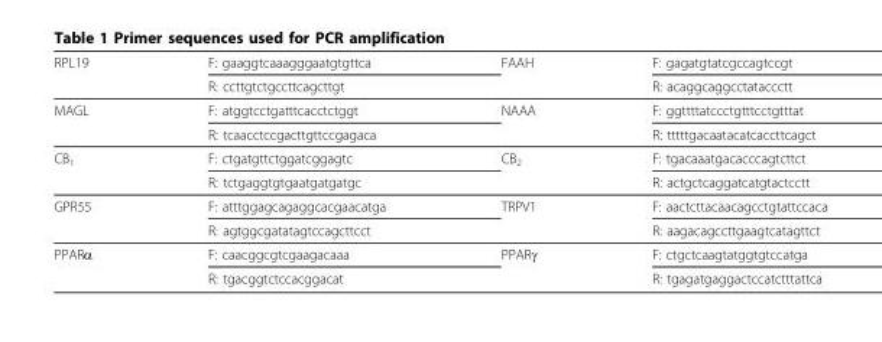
<table><thead><tr><td rowspan="2">RPL19</td><td rowspan="2">F: gaaggtcaaagggaatgtgttca R: ccttgtctgccttcagcttgt</td><td rowspan="2">FAAH</td><td rowspan="2">F: gagatgtatcgccagtccgt R: acaggcaggcctataccctt</td></tr><tr></tr></thead><tbody><tr><td rowspan="2">MAGL</td><td>F: atggtcctgatttcacctctggt</td><td>NAAA</td><td>F: ggttttatccctgtttcctgtttat</td></tr><tr><td>R: tcaacctccgacttgttccgagaca</td><td></td><td>R: tttttgacaatacatcaccttcagct</td></tr><tr><td rowspan="2">CB<sub>1</sub></td><td>F: ctgatgttctggatcggagtc</td><td>CB<sub>2</sub></td><td>F: tgacaaatgacacccagtcttct</td></tr><tr><td>R: tctgaggtgtgaatgatgatgc</td><td></td><td>R: actgctcaggatcatgtactcctt</td></tr><tr><td rowspan="2">GPR55</td><td>F: atttggagcagaggcacgaacatga</td><td>TRPV1</td><td>F: aactcttacaacagcctgtattccaca</td></tr><tr><td>R: agtggcgatatagtccagcttcct</td><td></td><td>R: aagacagccttgaagtcatagttct</td></tr><tr><td rowspan="2">PPARα</td><td>F: caacggcgtcgaagacaaa</td><td>PPARγ</td><td>F: ctgctcaagtatggtgtccatga</td></tr><tr><td>R: tgacggtctccacggacat</td><td></td><td>R: tgagatgaggactccatctttattca</td></tr></tbody></table>